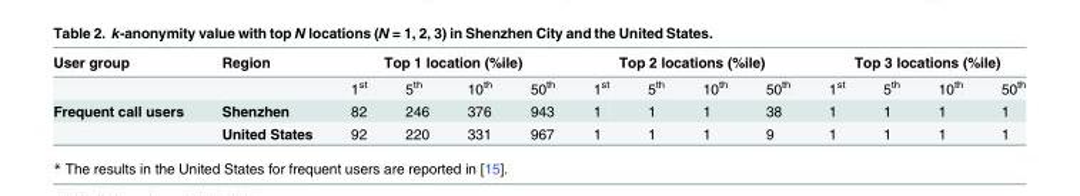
<table><thead><tr><td rowspan="2">User group</td><td rowspan="2">Region</td><td colspan="4">Top 1 location (%ile)</td><td colspan="4">Top 2 locations (%ile)</td><td colspan="4">Top 3 locations (%ile)</td></tr><tr><td>1<sup>st</sup></td><td>5<sup>th</sup></td><td>10<sup>th</sup></td><td>50<sup>th</sup></td><td>1<sup>st</sup></td><td>5<sup>th</sup></td><td>10<sup>th</sup></td><td>50<sup>th</sup></td><td>1<sup>st</sup></td><td>5<sup>th</sup></td><td>10<sup>th</sup></td><td>50<sup>th</sup></td></tr></thead><tbody><tr><td rowspan="2">Frequent call users</td><td>Shenzhen</td><td>82</td><td>246</td><td>376</td><td>943</td><td>1</td><td>1</td><td>1</td><td>38</td><td>1</td><td>1</td><td>1</td><td>1</td></tr><tr><td>United States</td><td>92</td><td>220</td><td>331</td><td>967</td><td>1</td><td>1</td><td>1</td><td>9</td><td>1</td><td>1</td><td>1</td><td>1</td></tr></tbody></table>